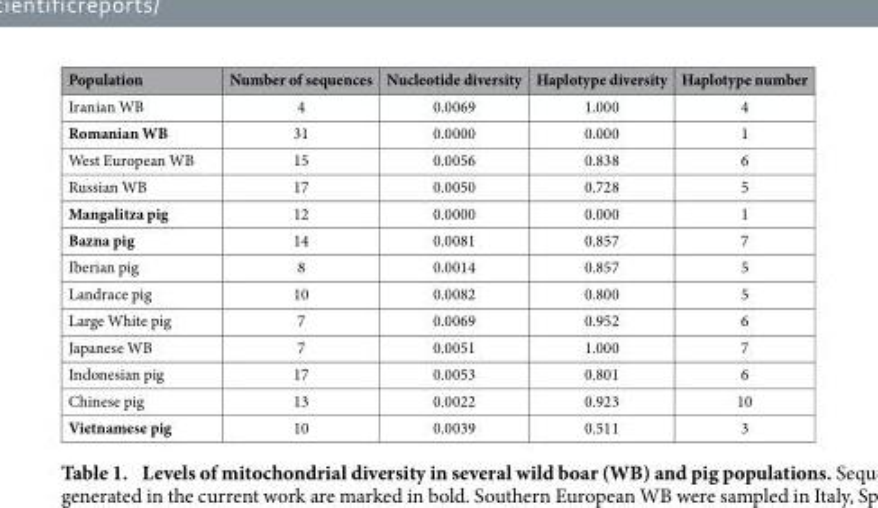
<table><thead><tr><td>Population</td><td>Number of sequences</td><td>Nucleotide diversity</td><td>Haplotype diversity</td><td>Haplotype number</td></tr></thead><tbody><tr><td>Iranian WB</td><td>4</td><td>0.0069</td><td>1.000</td><td>4</td></tr><tr><td>Romanian WB</td><td>31</td><td>0.0000</td><td>0.000</td><td>1</td></tr><tr><td>West European WB</td><td>15</td><td>0.0056</td><td>0.838</td><td>6</td></tr><tr><td>Russian WB</td><td>17</td><td>0.0050</td><td>0.728</td><td>5</td></tr><tr><td>Mangalitza pig</td><td>12</td><td>0.0000</td><td>0.000</td><td>1</td></tr><tr><td>Bazna pig</td><td>14</td><td>0.0081</td><td>0.857</td><td>7</td></tr><tr><td>Iberian pig</td><td>8</td><td>0.0014</td><td>0.857</td><td>5</td></tr><tr><td>Landrace pig</td><td>10</td><td>0.0082</td><td>0.800</td><td>5</td></tr><tr><td>Large White pig</td><td>7</td><td>0.0069</td><td>0.952</td><td>6</td></tr><tr><td>Japanese WB</td><td>7</td><td>0.0051</td><td>1.000</td><td>7</td></tr><tr><td>Indonesian pig</td><td>17</td><td>0.0053</td><td>0.801</td><td>6</td></tr><tr><td>Chinese pig</td><td>13</td><td>0.0022</td><td>0.923</td><td>10</td></tr><tr><td>Vietnamese pig</td><td>10</td><td>0.0039</td><td>0.511</td><td>3</td></tr></tbody></table>